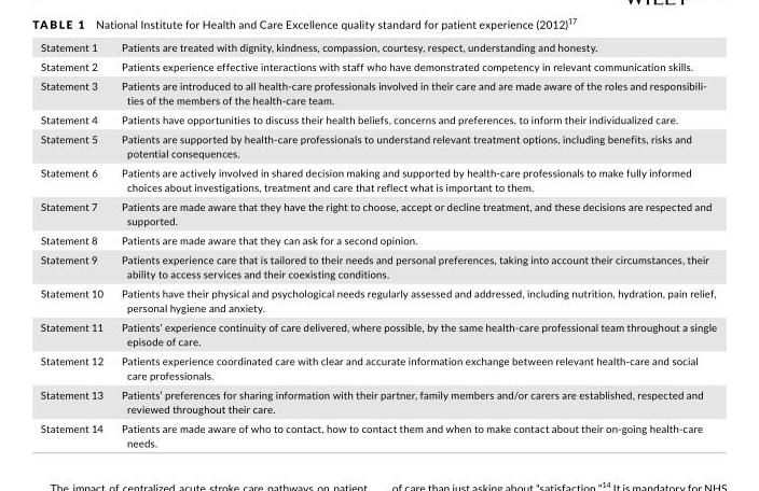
<table><tbody><tr><td>Statement 1</td><td>Patients are treated with dignity, kindness, compassion, courtesy, respect, understanding and honesty.</td></tr><tr><td>Statement 2</td><td>Patients experience effective interactions with staff who have demonstrated competency in relevant communication skills.</td></tr><tr><td>Statement 3</td><td>Patients are introduced to all health- care professionals involved in their care and are made aware of the roles and responsibili- ties of the members of the health- care team.</td></tr><tr><td>Statement 4</td><td>Patients have opportunities to discuss their health beliefs, concerns and preferences, to inform their individualized care.</td></tr><tr><td>Statement 5</td><td>Patients are supported by health- care professionals to understand relevant treatment options, including benefits, risks and potential consequences.</td></tr><tr><td>Statement 6</td><td>Patients are actively involved in shared decision making and supported by health- care professionals to make fully informed choices about investigations, treatment and care that reflect what is important to them.</td></tr><tr><td>Statement 7</td><td>Patients are made aware that they have the right to choose, accept or decline treatment, and these decisions are respected and supported.</td></tr><tr><td>Statement 8</td><td>Patients are made aware that they can ask for a second opinion.</td></tr><tr><td>Statement 9</td><td>Patients experience care that is tailored to their needs and personal preferences, taking into account their circumstances, their ability to access services and their coexisting conditions.</td></tr><tr><td>Statement 10</td><td>Patients have their physical and psychological needs regularly assessed and addressed, including nutrition, hydration, pain relief, personal hygiene and anxiety.</td></tr><tr><td>Statement 11</td><td>Patients’ experience continuity of care delivered, where possible, by the same health- care professional team throughout a single episode of care.</td></tr><tr><td>Statement 12</td><td>Patients experience coordinated care with clear and accurate information exchange between relevant health- care and social care professionals.</td></tr><tr><td>Statement 13</td><td>Patients’ preferences for sharing information with their partner, family members and/or carers are established, respected and reviewed throughout their care.</td></tr><tr><td>Statement 14</td><td>Patients are made aware of who to contact, how to contact them and when to make contact about their on- going health- care needs.</td></tr></tbody></table>